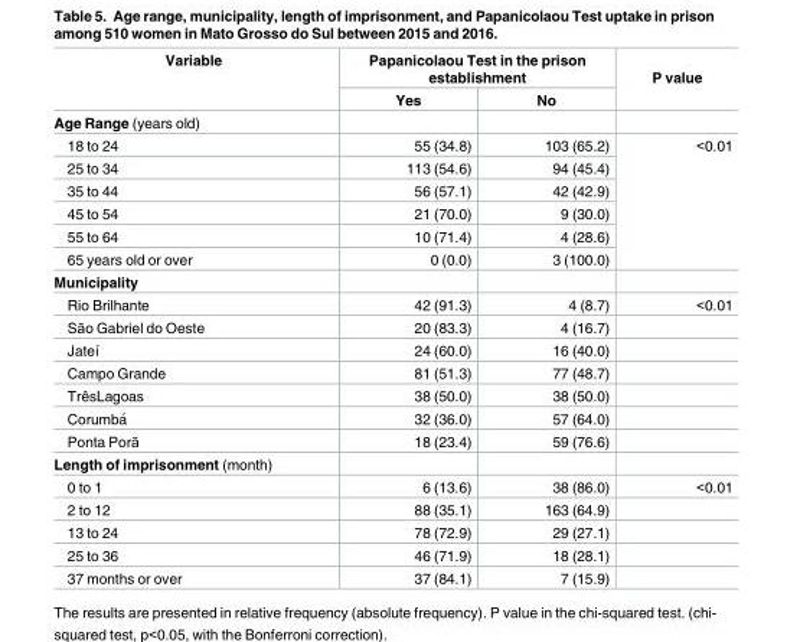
<table><thead><tr><td rowspan="2">Variable</td><td colspan="2">Papanicolaou Test in the prison establishment</td><td rowspan="2">P value</td></tr><tr><td>Yes</td><td>No</td></tr></thead><tbody><tr><td colspan="4">Age Range (years old)</td></tr><tr><td>18 to 24</td><td>55 (34.8)</td><td>103 (65.2)</td><td rowspan="6">&lt;0.01</td></tr><tr><td>25 to 34</td><td>113 (54.6)</td><td>94 (45.4)</td></tr><tr><td>35 to 44</td><td>56 (57.1)</td><td>42 (42.9)</td></tr><tr><td>45 to 54</td><td>21 (70.0)</td><td>9 (30.0)</td></tr><tr><td>55 to 64</td><td>10 (71.4)</td><td>4 (28.6)</td></tr><tr><td>65 years old or over</td><td>0 (0.0)</td><td>3 (100.0)</td></tr><tr><td colspan="4">Municipality</td></tr><tr><td>Rio Brilhante</td><td>42 (91.3)</td><td>4 (8.7)</td><td>&lt;0.01</td></tr><tr><td>São Gabriel do Oeste</td><td>20 (83.3)</td><td>4 (16.7)</td><td></td></tr><tr><td>Jateı´</td><td>24 (60.0)</td><td>16 (40.0)</td><td></td></tr><tr><td>Campo Grande</td><td>81 (51.3)</td><td>77 (48.7)</td><td></td></tr><tr><td>TrêsLagoas</td><td>38 (50.0)</td><td>38 (50.0)</td><td></td></tr><tr><td>Corumba´</td><td>32 (36.0)</td><td>57 (64.0)</td><td></td></tr><tr><td>Ponta Porã</td><td>18 (23.4)</td><td>59 (76.6)</td><td></td></tr><tr><td colspan="4">Length of imprisonment (month)</td></tr><tr><td>0 to 1</td><td>6 (13.6)</td><td>38 (86.0)</td><td>&lt;0.01</td></tr><tr><td>2 to 12</td><td>88 (35.1)</td><td>163 (64.9)</td><td></td></tr><tr><td>13 to 24</td><td>78 (72.9)</td><td>29 (27.1)</td><td></td></tr><tr><td>25 to 36</td><td>46 (71.9)</td><td>18 (28.1)</td><td></td></tr><tr><td>37 months or over</td><td>37 (84.1)</td><td>7 (15.9)</td><td></td></tr></tbody></table>